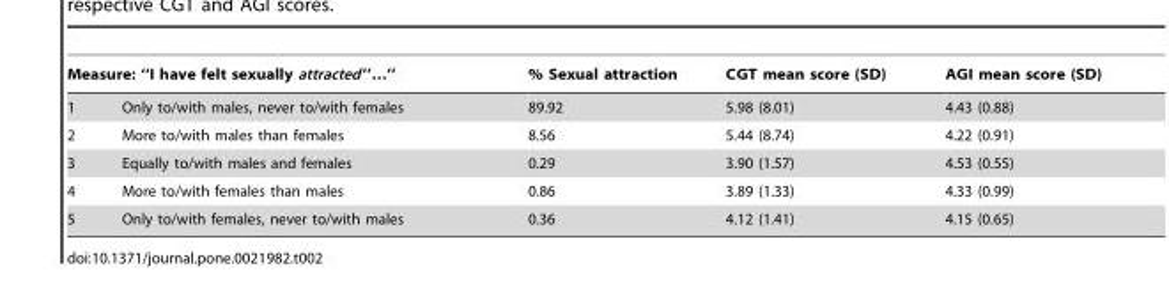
<table><thead><tr><td colspan="2">Measure: ‘‘I have felt sexually attracted ’’…’’</td><td rowspan="2">% Sexual attraction 89.92</td><td rowspan="2">CGT mean score (SD) 5.98 (8.01)</td><td rowspan="2">AGI mean score (SD) 4.43 (0.88)</td></tr><tr><td>1</td><td>Only to/with males, never to/with females</td></tr></thead><tbody><tr><td>2</td><td>More to/with males than females</td><td>8.56</td><td>5.44 (8.74)</td><td>4.22 (0.91)</td></tr><tr><td>3</td><td>Equally to/with males and females</td><td>0.29</td><td>3.90 (1.57)</td><td>4.53 (0.55)</td></tr><tr><td>4</td><td>More to/with females than males</td><td>0.86</td><td>3.89 (1.33)</td><td>4.33 (0.99)</td></tr><tr><td>5</td><td>Only to/with females, never to/with males</td><td>0.36</td><td>4.12 (1.41)</td><td>4.15 (0.65)</td></tr></tbody></table>